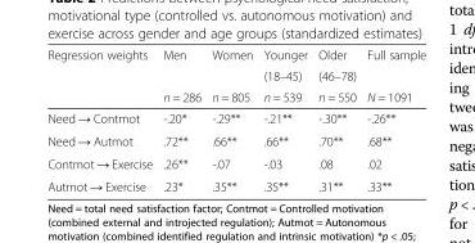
<table><thead><tr><td rowspan="3">Regression weights</td><td rowspan="3">Men n = 286</td><td rowspan="3">Women n = 805</td><td rowspan="3">Younger (18–45) n = 539</td><td rowspan="3">Older (46–78) n = 550</td><td rowspan="3">Full sample N = 1091</td></tr><tr></tr><tr></tr></thead><tbody><tr><td>Need → Contmot</td><td>-.20*</td><td>-.29**</td><td>-.21**</td><td>-.30**</td><td>-.26**</td></tr><tr><td>Need → Autmot</td><td>.72**</td><td>.66**</td><td>.66**</td><td>.70**</td><td>.68**</td></tr><tr><td>Contmot → Exercise</td><td>.26**</td><td>-.07</td><td>-.03</td><td>.08</td><td>.02</td></tr><tr><td>Autmot → Exercise</td><td>.23*</td><td>.35**</td><td>.35**</td><td>.31**</td><td>.33**</td></tr></tbody></table>